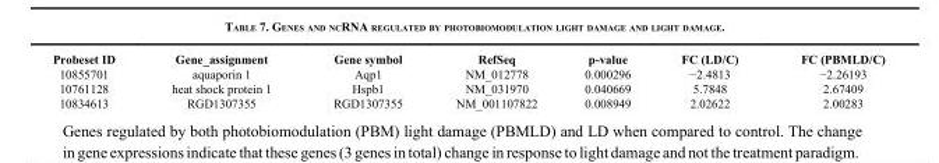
<table><thead><tr><td>Probeset ID</td><td>Gene_assignment</td><td>Gene symbol</td><td>RefSeq</td><td>p-value</td><td>FC (LD/C)</td><td>FC (PBMLD/C)</td></tr></thead><tbody><tr><td>10855701</td><td>aquaporin 1</td><td>Aqp1</td><td>NM_012778</td><td>0.000296</td><td>−2.4813</td><td>−2.26193</td></tr><tr><td>10761128</td><td>heat shock protein 1</td><td>Hspb1</td><td>NM_031970</td><td>0.040669</td><td>5.7848</td><td>2.67409</td></tr><tr><td>10834613</td><td>RGD1307355</td><td>RGD1307355</td><td>NM_001107822</td><td>0.008949</td><td>2.02622</td><td>2.00283</td></tr></tbody></table>